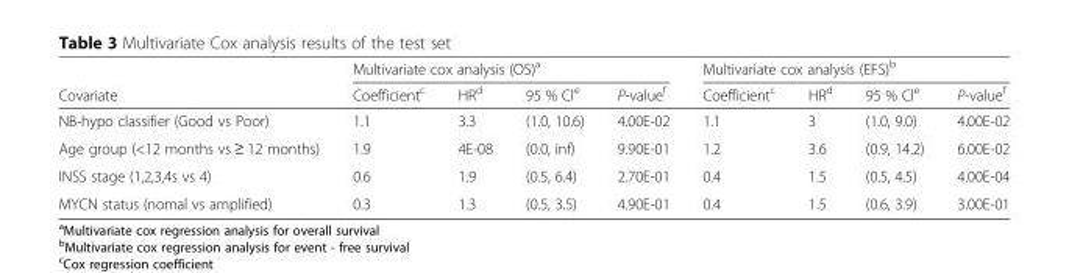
<table><thead><tr><td rowspan="2">Covariate</td><td colspan="4">Multivariate cox analysis (OS)<sup>a</sup></td><td colspan="4">Multivariate cox analysis (EFS)<sup>b</sup></td></tr><tr><td>Coefficient<sup>c</sup></td><td>HR<sup>d</sup></td><td>95 % Cl<sup>e</sup></td><td>P-value<sup>f</sup></td><td>Coefficient<sup>c</sup></td><td>HR<sup>d</sup></td><td>95 % Cl<sup>e</sup></td><td>P-value<sup>f</sup></td></tr></thead><tbody><tr><td>NB-hypo classifier (Good vs Poor)</td><td>1.1</td><td>3.3</td><td>(1.0, 10.6)</td><td>4.00E-02</td><td>1.1</td><td>3</td><td>(1.0, 9.0)</td><td>4.00E-02</td></tr><tr><td>Age group (&lt;12 months vs ≥ 12 months)</td><td>1.9</td><td>4E-08</td><td>(0.0, inf)</td><td>9.90E-01</td><td>1.2</td><td>3.6</td><td>(0.9, 14.2)</td><td>6.00E-02</td></tr><tr><td>INSS stage (1,2,3,4s vs 4)</td><td>0.6</td><td>1.9</td><td>(0.5, 6.4)</td><td>2.70E-01</td><td>0.4</td><td>1.5</td><td>(0.5, 4.5)</td><td>4.00E-04</td></tr><tr><td>MYCN status (nomal vs amplified)</td><td>0.3</td><td>1.3</td><td>(0.5, 3.5)</td><td>4.90E-01</td><td>0.4</td><td>1.5</td><td>(0.6, 3.9)</td><td>3.00E-01</td></tr></tbody></table>